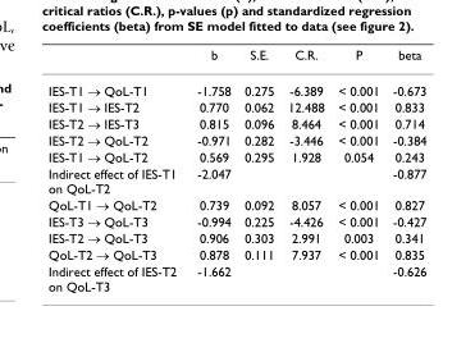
<table><thead><tr><td></td><td>b</td><td>S.E.</td><td>C.R.</td><td>P</td><td>beta</td></tr></thead><tbody><tr><td>IES-T1 → QoL-T1</td><td>-1.758</td><td>0.275</td><td>-6.389</td><td>&lt; 0.001</td><td>-0.673</td></tr><tr><td>IES-T1 → IES-T2</td><td>0.770</td><td>0.062</td><td>12.488</td><td>&lt; 0.001</td><td>0.833</td></tr><tr><td>IES-T2 → IES-T3</td><td>0.815</td><td>0.096</td><td>8.464</td><td>&lt; 0.001</td><td>0.714</td></tr><tr><td>IES-T2 → QoL-T2</td><td>-0.971</td><td>0.282</td><td>-3.446</td><td>&lt; 0.001</td><td>-0.384</td></tr><tr><td>IES-T1 → QoL-T2</td><td>0.569</td><td>0.295</td><td>1.928</td><td>0.054</td><td>0.243</td></tr><tr><td>Indirect effect of IES-T1 on QoL-T2</td><td>-2.047</td><td></td><td></td><td></td><td>-0.877</td></tr><tr><td>QoL-T1 → QoL-T2</td><td>0.739</td><td>0.092</td><td>8.057</td><td>&lt; 0.001</td><td>0.827</td></tr><tr><td>IES-T3 → QoL-T3</td><td>-0.994</td><td>0.225</td><td>-4.426</td><td>&lt; 0.001</td><td>-0.427</td></tr><tr><td>IES-T2 → QoL-T3</td><td>0.906</td><td>0.303</td><td>2.991</td><td>0.003</td><td>0.341</td></tr><tr><td>QoL-T2 → QoL-T3</td><td>0.878</td><td>0.111</td><td>7.937</td><td>&lt; 0.001</td><td>0.835</td></tr><tr><td>Indirect effect of IES-T2 on QoL-T3</td><td>-1.662</td><td></td><td></td><td></td><td>-0.626</td></tr></tbody></table>